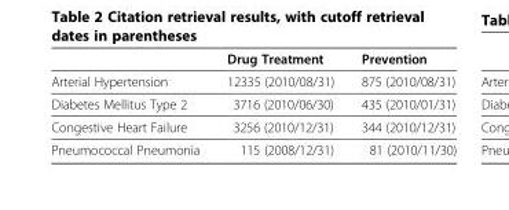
<table><thead><tr><td></td><td>Drug Treatment</td><td>Prevention</td></tr></thead><tbody><tr><td>Arterial Hypertension</td><td>12335 (2010/08/31)</td><td>875 (2010/08/31)</td></tr><tr><td>Diabetes Mellitus Type 2</td><td>3716 (2010/06/30)</td><td>435 (2010/01/31)</td></tr><tr><td>Congestive Heart Failure</td><td>3256 (2010/12/31)</td><td>344 (2010/12/31)</td></tr><tr><td>Pneumococcal Pneumonia</td><td>115 (2008/12/31)</td><td>81 (2010/11/30)</td></tr></tbody></table>